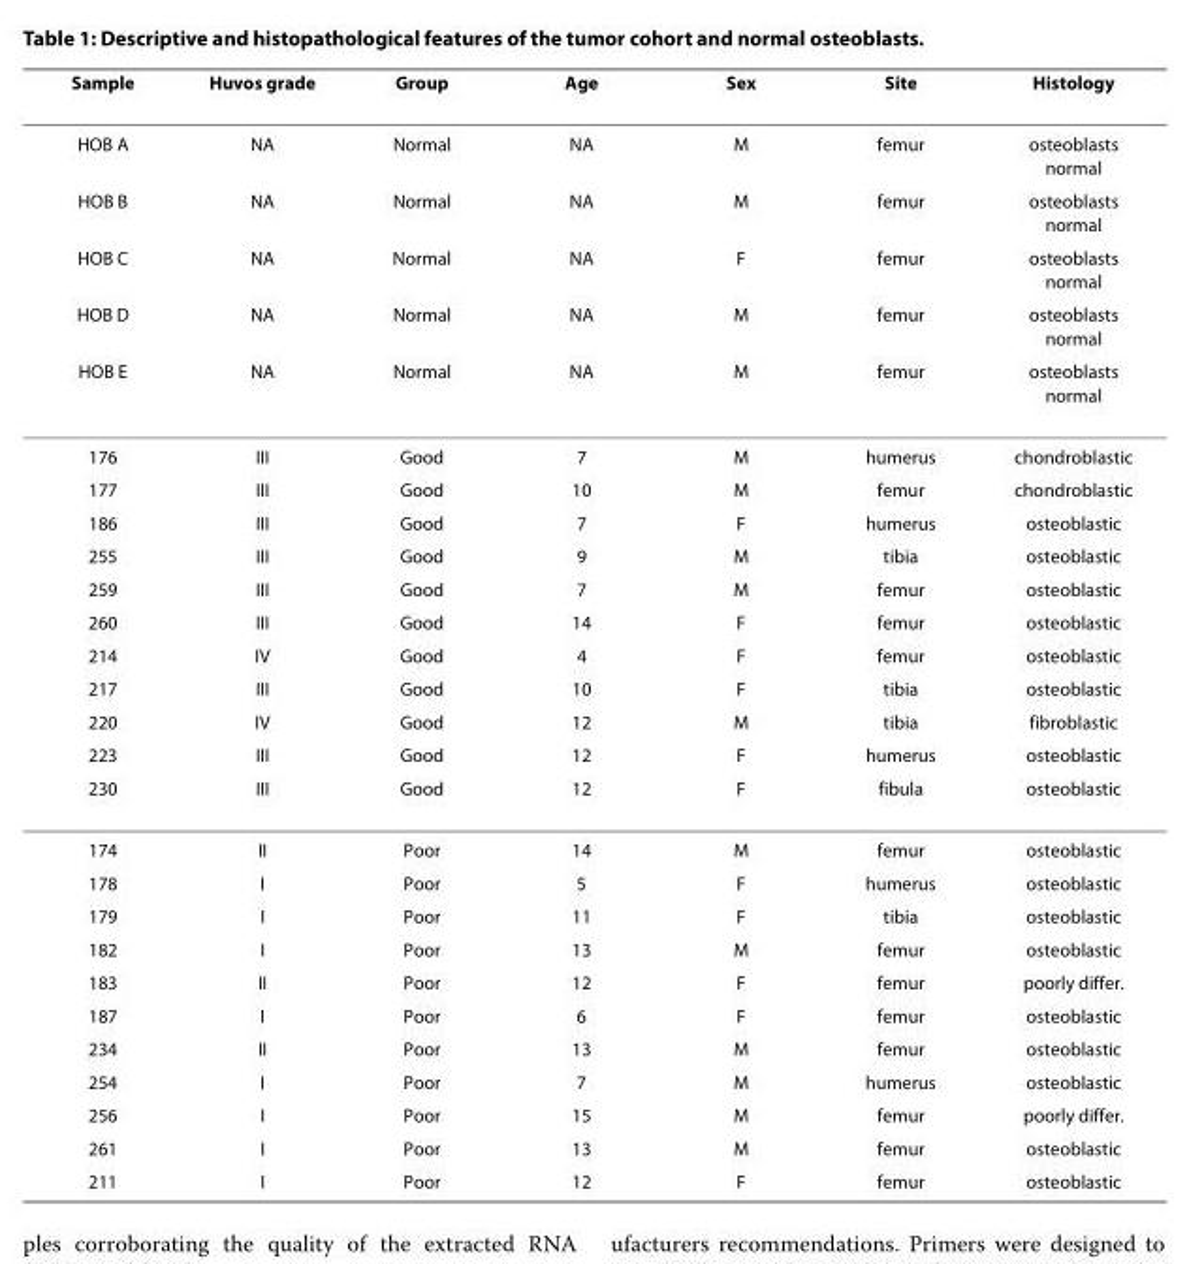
<table><thead><tr><td>Sample</td><td>Huvos grade</td><td>Group</td><td>Age</td><td>Sex</td><td>Site</td><td>Histology</td></tr></thead><tbody><tr><td>HOB A</td><td>NA</td><td>Normal</td><td>NA</td><td>M</td><td>femur</td><td>osteoblasts normal</td></tr><tr><td>HOB B</td><td>NA</td><td>Normal</td><td>NA</td><td>M</td><td>femur</td><td>osteoblasts normal</td></tr><tr><td>HOB C</td><td>NA</td><td>Normal</td><td>NA</td><td>F</td><td>femur</td><td>osteoblasts normal</td></tr><tr><td>HOB D</td><td>NA</td><td>Normal</td><td>NA</td><td>M</td><td>femur</td><td>osteoblasts normal</td></tr><tr><td>HOB E</td><td>NA</td><td>Normal</td><td>NA</td><td>M</td><td>femur</td><td>osteoblasts normal</td></tr><tr><td>176</td><td>III</td><td>Good</td><td>7</td><td>M</td><td>humerus</td><td>chondroblastic</td></tr><tr><td>177</td><td>III</td><td>Good</td><td>10</td><td>M</td><td>femur</td><td>chondroblastic</td></tr><tr><td>186</td><td>III</td><td>Good</td><td>7</td><td>F</td><td>humerus</td><td>osteoblastic</td></tr><tr><td>255</td><td>III</td><td>Good</td><td>9</td><td>M</td><td>tibia</td><td>osteoblastic</td></tr><tr><td>259</td><td>III</td><td>Good</td><td>7</td><td>M</td><td>femur</td><td>osteoblastic</td></tr><tr><td>260</td><td>III</td><td>Good</td><td>14</td><td>F</td><td>femur</td><td>osteoblastic</td></tr><tr><td>214</td><td>IV</td><td>Good</td><td>4</td><td>F</td><td>femur</td><td>osteoblastic</td></tr><tr><td>217</td><td>III</td><td>Good</td><td>10</td><td>F</td><td>tibia</td><td>osteoblastic</td></tr><tr><td>220</td><td>IV</td><td>Good</td><td>12</td><td>M</td><td>tibia</td><td>fibroblastic</td></tr><tr><td>223</td><td>III</td><td>Good</td><td>12</td><td>F</td><td>humerus</td><td>osteoblastic</td></tr><tr><td>230</td><td>III</td><td>Good</td><td>12</td><td>F</td><td>fibula</td><td>osteoblastic</td></tr><tr><td>174</td><td>II</td><td>Poor</td><td>14</td><td>M</td><td>femur</td><td>osteoblastic</td></tr><tr><td>178</td><td>I</td><td>Poor</td><td>5</td><td>F</td><td>humerus</td><td>osteoblastic</td></tr><tr><td>179</td><td>I</td><td>Poor</td><td>11</td><td>F</td><td>tibia</td><td>osteoblastic</td></tr><tr><td>182</td><td>I</td><td>Poor</td><td>13</td><td>M</td><td>femur</td><td>osteoblastic</td></tr><tr><td>183</td><td>II</td><td>Poor</td><td>12</td><td>F</td><td>femur</td><td>poorly differ.</td></tr><tr><td>187</td><td>I</td><td>Poor</td><td>6</td><td>F</td><td>femur</td><td>osteoblastic</td></tr><tr><td>234</td><td>II</td><td>Poor</td><td>13</td><td>M</td><td>femur</td><td>osteoblastic</td></tr><tr><td>254</td><td>I</td><td>Poor</td><td>7</td><td>M</td><td>humerus</td><td>osteoblastic</td></tr><tr><td>256</td><td>I</td><td>Poor</td><td>15</td><td>M</td><td>femur</td><td>poorly differ.</td></tr><tr><td>261</td><td>I</td><td>Poor</td><td>13</td><td>M</td><td>femur</td><td>osteoblastic</td></tr><tr><td>211</td><td>I</td><td>Poor</td><td>12</td><td>F</td><td>femur</td><td>osteoblastic</td></tr></tbody></table>